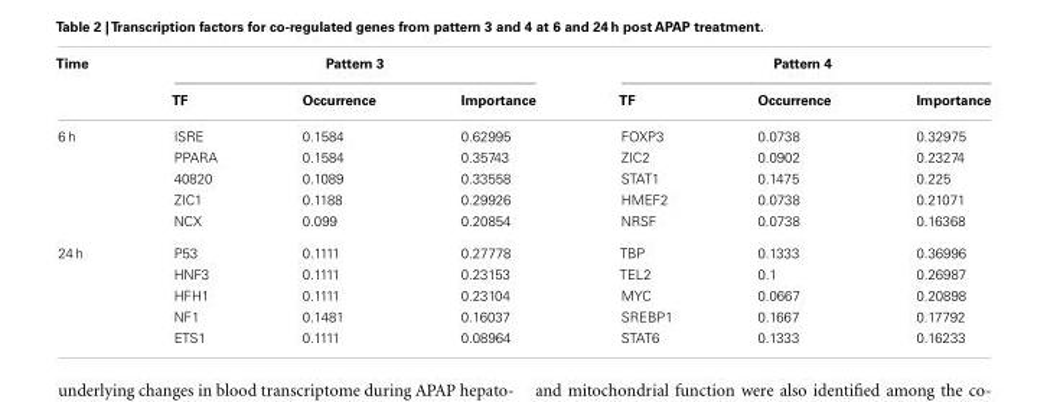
<table><thead><tr><td rowspan="2">Time</td><td colspan="3">Pattern 3</td><td colspan="3">Pattern 4</td></tr><tr><td>TF</td><td>Occurrence</td><td>Importance</td><td>TF</td><td>Occurrence</td><td>Importance</td></tr></thead><tbody><tr><td rowspan="5">6 h</td><td>ISRE</td><td>0.1584</td><td>0.62995</td><td>FOXP3</td><td>0.0738</td><td>0.32975</td></tr><tr><td>PPARA</td><td>0.1584</td><td>0.35743</td><td>ZIC2</td><td>0.0902</td><td>0.23274</td></tr><tr><td>40820</td><td>0.1089</td><td>0.33558</td><td>STAT1</td><td>0.1475</td><td>0.225</td></tr><tr><td>ZIC1</td><td>0.1188</td><td>0.29926</td><td>HMEF2</td><td>0.0738</td><td>0.21071</td></tr><tr><td>NCX</td><td>0.099</td><td>0.20854</td><td>NRSF</td><td>0.0738</td><td>0.16368</td></tr><tr><td rowspan="5">24 h</td><td>P53</td><td>0.1111</td><td>0.27778</td><td>TBP</td><td>0.1333</td><td>0.36996</td></tr><tr><td>HNF3</td><td>0.1111</td><td>0.23153</td><td>TEL2</td><td>0.1</td><td>0.26987</td></tr><tr><td>HFH1</td><td>0.1111</td><td>0.23104</td><td>MYC</td><td>0.0667</td><td>0.20898</td></tr><tr><td>NF1</td><td>0.1481</td><td>0.16037</td><td>SREBP1</td><td>0.1667</td><td>0.17792</td></tr><tr><td>ETS1</td><td>0.1111</td><td>0.08964</td><td>STAT6</td><td>0.1333</td><td>0.16233</td></tr></tbody></table>